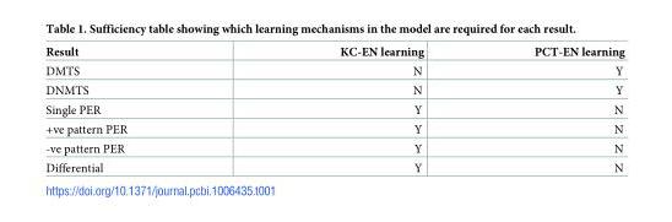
<table><thead><tr><td>Result</td><td>KC-EN learning</td><td>PCT-EN learning</td></tr></thead><tbody><tr><td>DMTS</td><td>N</td><td>Y</td></tr><tr><td>DNMTS</td><td>N</td><td>Y</td></tr><tr><td>Single PER</td><td>Y</td><td>N</td></tr><tr><td>+ve pattern PER</td><td>Y</td><td>N</td></tr><tr><td>-ve pattern PER</td><td>Y</td><td>N</td></tr><tr><td>Differential</td><td>Y</td><td>N</td></tr></tbody></table>